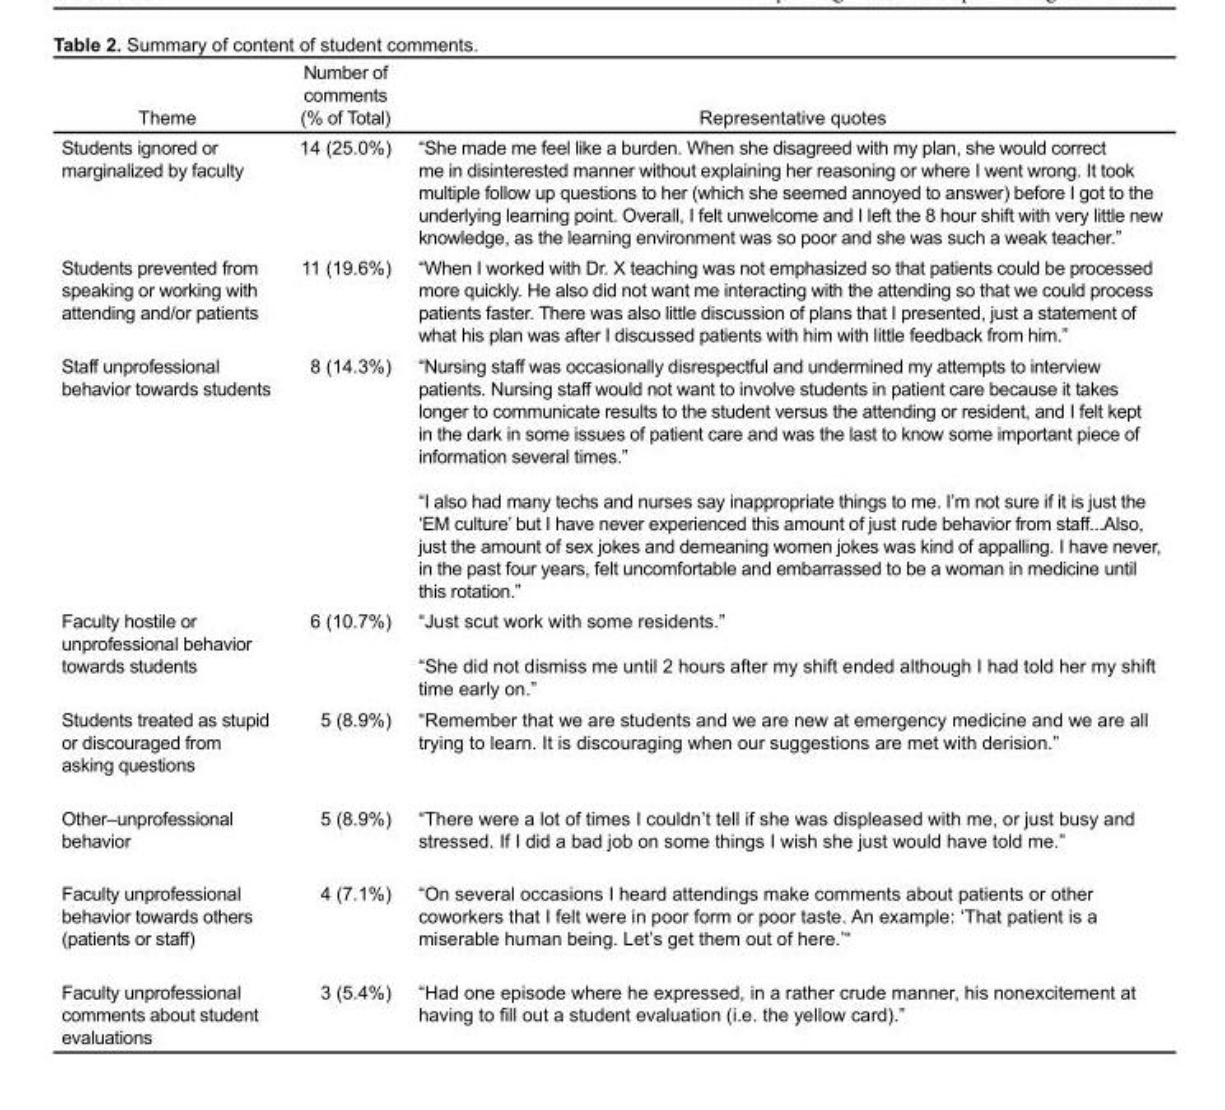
<table><thead><tr><td>Theme</td><td>Number of comments (% of Total)</td><td>Representative quotes</td></tr></thead><tbody><tr><td>Students ignored or marginalized by faculty</td><td>14 (25.0%)</td><td>“She made me feel like a burden. When she disagreed with my plan, she would correct me in disinterested manner without explaining her reasoning or where I went wrong. It took multiple follow up questions to her (which she seemed annoyed to answer) before I got to the underlying learning point. Overall, I felt unwelcome and I left the 8 hour shift with very little new knowledge, as the learning environment was so poor and she was such a weak teacher.”</td></tr><tr><td>Students prevented from speaking or working with attending and/or patients</td><td>11 (19.6%)</td><td>“When I worked with Dr. X teaching was not emphasized so that patients could be processed more quickly. He also did not want me interacting with the attending so that we could process patients faster. There was also little discussion of plans that I presented, just a statement of what his plan was after I discussed patients with him with little feedback from him.”</td></tr><tr><td>Staff unprofessional behavior towards students</td><td>8 (14.3%)</td><td>“Nursing staff was occasionally disrespectful and undermined my attempts to interview patients. Nursing staff would not want to involve students in patient care because it takes longer to communicate results to the student versus the attending or resident, and I felt kept in the dark in some issues of patient care and was the last to know some important piece of information several times.” “I also had many techs and nurses say inappropriate things to me. I’m not sure if it is just the ‘EM culture’ but I have never experienced this amount of just rude behavior from staff...Also, just the amount of sex jokes and demeaning women jokes was kind of appalling. I have never, in the past four years, felt uncomfortable and embarrassed to be a woman in medicine until this rotation.”</td></tr><tr><td>Faculty hostile or unprofessional behavior towards students</td><td>6 (10.7%)</td><td>“Just scut work with some residents.” “She did not dismiss me until 2 hours after my shift ended although I had told her my shift time early on.”</td></tr><tr><td>Students treated as stupid or discouraged from asking questions</td><td>5 (8.9%)</td><td>“Remember that we are students and we are new at emergency medicine and we are all trying to learn. It is discouraging when our suggestions are met with derision.”</td></tr><tr><td>Other–unprofessional behavior</td><td>5 (8.9%)</td><td>“There were a lot of times I couldn’t tell if she was displeased with me, or just busy and stressed. If I did a bad job on some things I wish she just would have told me.”</td></tr><tr><td>Faculty unprofessional behavior towards others (patients or staff)</td><td>4 (7.1%)</td><td>“On several occasions I heard attendings make comments about patients or other coworkers that I felt were in poor form or poor taste. An example: ‘That patient is a miserable human being. Let’s get them out of here.’“</td></tr><tr><td>Faculty unprofessional comments about student evaluations</td><td>3 (5.4%)</td><td>“Had one episode where he expressed, in a rather crude manner, his nonexcitement at having to fill out a student evaluation (i.e. the yellow card).”</td></tr></tbody></table>